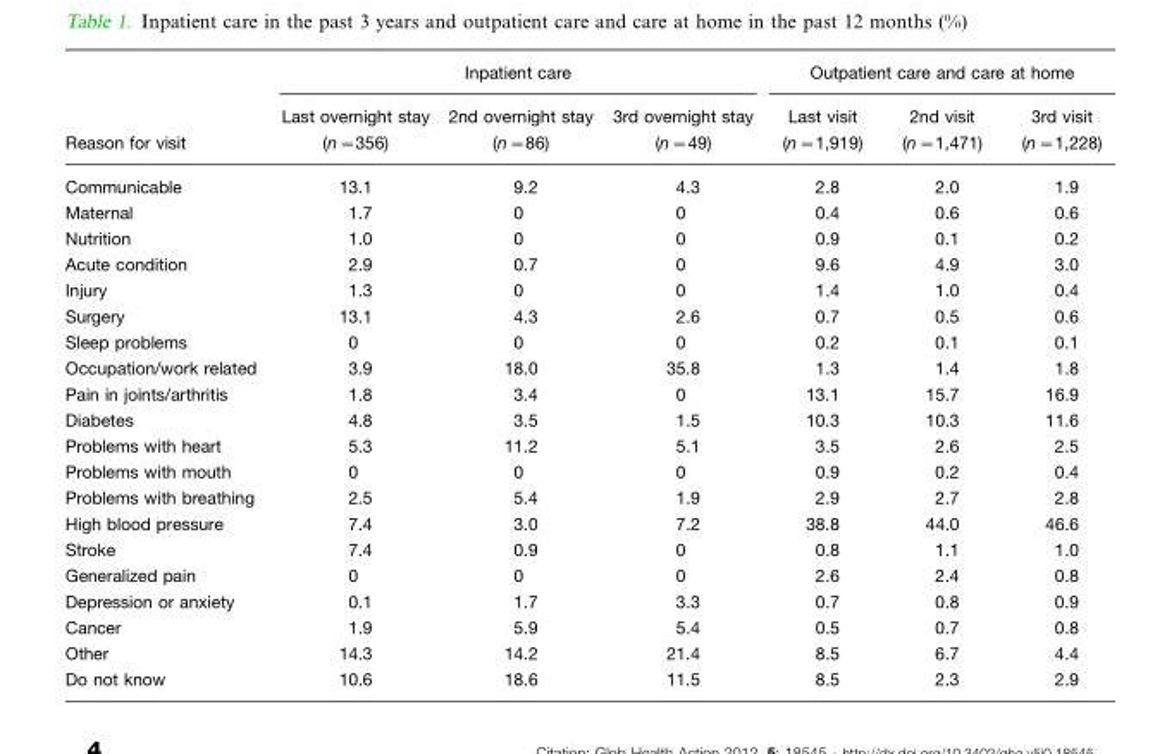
<table><thead><tr><td rowspan="2">Reason for visit</td><td colspan="3">Inpatient care</td><td colspan="3">Outpatient care and care at home</td></tr><tr><td>Last overnight stay (n=356)</td><td>2nd overnight stay (n=86)</td><td>3rd overnight stay (n=49)</td><td>Last visit (n=1,919)</td><td>2nd visit (n=1,471)</td><td>3rd visit (n=1,228)</td></tr></thead><tbody><tr><td>Communicable</td><td>13.1</td><td>9.2</td><td>4.3</td><td>2.8</td><td>2.0</td><td>1.9</td></tr><tr><td>Maternal</td><td>1.7</td><td>0</td><td>0</td><td>0.4</td><td>0.6</td><td>0.6</td></tr><tr><td>Nutrition</td><td>1.0</td><td>0</td><td>0</td><td>0.9</td><td>0.1</td><td>0.2</td></tr><tr><td>Acute condition</td><td>2.9</td><td>0.7</td><td>0</td><td>9.6</td><td>4.9</td><td>3.0</td></tr><tr><td>Injury</td><td>1.3</td><td>0</td><td>0</td><td>1.4</td><td>1.0</td><td>0.4</td></tr><tr><td>Surgery</td><td>13.1</td><td>4.3</td><td>2.6</td><td>0.7</td><td>0.5</td><td>0.6</td></tr><tr><td>Sleep problems</td><td>0</td><td>0</td><td>0</td><td>0.2</td><td>0.1</td><td>0.1</td></tr><tr><td>Occupation/work related</td><td>3.9</td><td>18.0</td><td>35.8</td><td>1.3</td><td>1.4</td><td>1.8</td></tr><tr><td>Pain in joints/arthritis</td><td>1.8</td><td>3.4</td><td>0</td><td>13.1</td><td>15.7</td><td>16.9</td></tr><tr><td>Diabetes</td><td>4.8</td><td>3.5</td><td>1.5</td><td>10.3</td><td>10.3</td><td>11.6</td></tr><tr><td>Problems with heart</td><td>5.3</td><td>11.2</td><td>5.1</td><td>3.5</td><td>2.6</td><td>2.5</td></tr><tr><td>Problems with mouth</td><td>0</td><td>0</td><td>0</td><td>0.9</td><td>0.2</td><td>0.4</td></tr><tr><td>Problems with breathing</td><td>2.5</td><td>5.4</td><td>1.9</td><td>2.9</td><td>2.7</td><td>2.8</td></tr><tr><td>High blood pressure</td><td>7.4</td><td>3.0</td><td>7.2</td><td>38.8</td><td>44.0</td><td>46.6</td></tr><tr><td>Stroke</td><td>7.4</td><td>0.9</td><td>0</td><td>0.8</td><td>1.1</td><td>1.0</td></tr><tr><td>Generalized pain</td><td>0</td><td>0</td><td>0</td><td>2.6</td><td>2.4</td><td>0.8</td></tr><tr><td>Depression or anxiety</td><td>0.1</td><td>1.7</td><td>3.3</td><td>0.7</td><td>0.8</td><td>0.9</td></tr><tr><td>Cancer</td><td>1.9</td><td>5.9</td><td>5.4</td><td>0.5</td><td>0.7</td><td>0.8</td></tr><tr><td>Other</td><td>14.3</td><td>14.2</td><td>21.4</td><td>8.5</td><td>6.7</td><td>4.4</td></tr><tr><td>Do not know</td><td>10.6</td><td>18.6</td><td>11.5</td><td>8.5</td><td>2.3</td><td>2.9</td></tr></tbody></table>